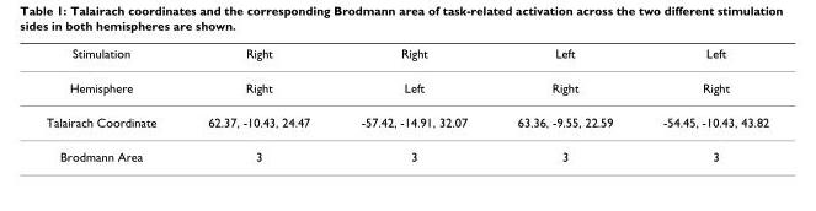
<table><thead><tr><td>Stimulation</td><td>Right</td><td>Right</td><td>Left</td><td>Left</td></tr></thead><tbody><tr><td>Hemisphere</td><td>Right</td><td>Left</td><td>Right</td><td>Right</td></tr><tr><td>Talairach Coordinate</td><td>62.37, -10.43, 24.47</td><td>-57.42, -14.91, 32.07</td><td>63.36, -9.55, 22.59</td><td>-54.45, -10.43, 43.82</td></tr><tr><td>Brodmann Area</td><td>3</td><td>3</td><td>3</td><td>3</td></tr></tbody></table>